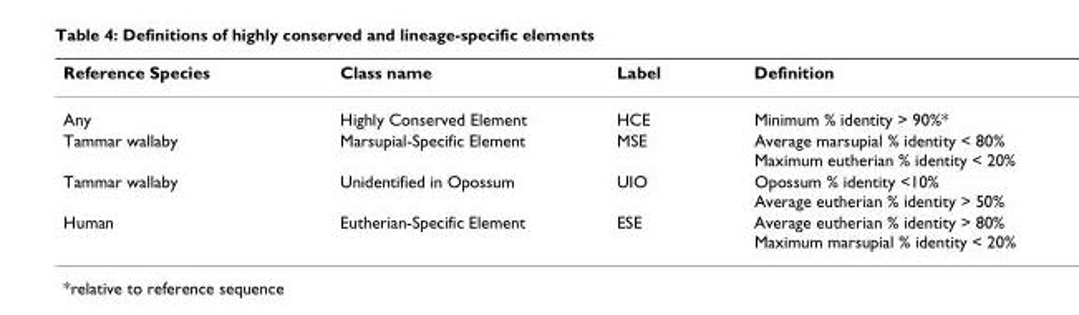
<table><thead><tr><td>Reference Species</td><td>Class name</td><td>Label</td><td>Definition</td></tr></thead><tbody><tr><td>Any</td><td>Highly Conserved Element</td><td>HCE</td><td>Minimum % identity &gt; 90%*</td></tr><tr><td>Tammar wallaby</td><td>Marsupial-Specific Element</td><td>MSE</td><td>Average marsupial % identity &lt; 80% Maximum eutherian % identity &lt; 20%</td></tr><tr><td>Tammar wallaby</td><td>Unidentified in Opossum</td><td>UIO</td><td>Opossum % identity &lt;10% Average eutherian % identity &gt; 50%</td></tr><tr><td>Human</td><td>Eutherian-Specific Element</td><td>ESE</td><td>Average eutherian % identity &gt; 80% Maximum marsupial % identity &lt; 20%</td></tr></tbody></table>